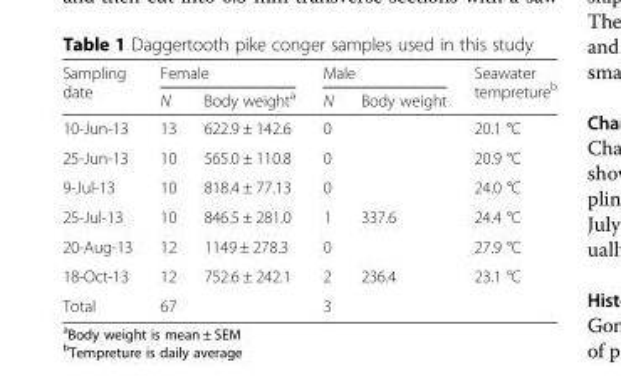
<table><thead><tr><td rowspan="2">Sampling date</td><td colspan="2">Female</td><td colspan="2">Male</td><td rowspan="2">Seawater tempreture<sup>b</sup></td></tr><tr><td>N</td><td>Body weight<sup>a</sup></td><td>N</td><td>Body weight</td></tr></thead><tbody><tr><td>10-Jun-13</td><td>13</td><td>622.9 ± 142.6</td><td>0</td><td></td><td>20.1 °C</td></tr><tr><td>25-Jun-13</td><td>10</td><td>565.0 ± 110.8</td><td>0</td><td></td><td>20.9 °C</td></tr><tr><td>9-Jul-13</td><td>10</td><td>818.4 ± 77.13</td><td>0</td><td></td><td>24.0 °C</td></tr><tr><td>25-Jul-13</td><td>10</td><td>846.5 ± 281.0</td><td>1</td><td>337.6</td><td>24.4 °C</td></tr><tr><td>20-Aug-13</td><td>12</td><td>1149 ± 278.3</td><td>0</td><td></td><td>27.9 °C</td></tr><tr><td>18-Oct-13</td><td>12</td><td>752.6 ± 242.1</td><td>2</td><td>236.4</td><td>23.1 °C</td></tr><tr><td>Total</td><td>67</td><td></td><td>3</td><td></td><td></td></tr></tbody></table>